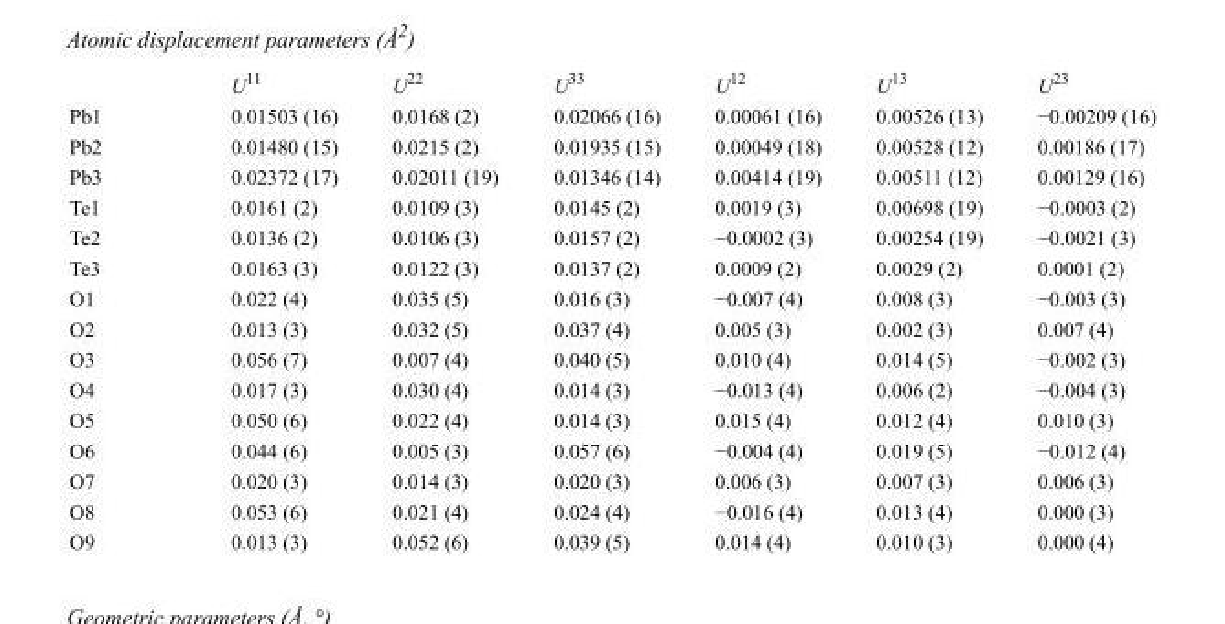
<table><thead><tr><td></td><td>U<sup>11</sup></td><td>U<sup>22</sup></td><td>U<sup>33</sup></td><td>U<sup>12</sup></td><td>U<sup>13</sup></td><td>U<sup>23</sup></td></tr></thead><tbody><tr><td>Pb1</td><td>0.01503 (16)</td><td>0.0168 (2)</td><td>0.02066 (16)</td><td>0.00061 (16)</td><td>0.00526 (13)</td><td>−0.00209 (16)</td></tr><tr><td>Pb2</td><td>0.01480 (15)</td><td>0.0215 (2)</td><td>0.01935 (15)</td><td>0.00049 (18)</td><td>0.00528 (12)</td><td>0.00186 (17)</td></tr><tr><td>Pb3</td><td>0.02372 (17)</td><td>0.02011 (19)</td><td>0.01346 (14)</td><td>0.00414 (19)</td><td>0.00511 (12)</td><td>0.00129 (16)</td></tr><tr><td>Te1</td><td>0.0161 (2)</td><td>0.0109 (3)</td><td>0.0145 (2)</td><td>0.0019 (3)</td><td>0.00698 (19)</td><td>−0.0003 (2)</td></tr><tr><td>Te2</td><td>0.0136 (2)</td><td>0.0106 (3)</td><td>0.0157 (2)</td><td>−0.0002 (3)</td><td>0.00254 (19)</td><td>−0.0021 (3)</td></tr><tr><td>Te3</td><td>0.0163 (3)</td><td>0.0122 (3)</td><td>0.0137 (2)</td><td>0.0009 (2)</td><td>0.0029 (2)</td><td>0.0001 (2)</td></tr><tr><td>O1</td><td>0.022 (4)</td><td>0.035 (5)</td><td>0.016 (3)</td><td>−0.007 (4)</td><td>0.008 (3)</td><td>−0.003 (3)</td></tr><tr><td>O2</td><td>0.013 (3)</td><td>0.032 (5)</td><td>0.037 (4)</td><td>0.005 (3)</td><td>0.002 (3)</td><td>0.007 (4)</td></tr><tr><td>O3</td><td>0.056 (7)</td><td>0.007 (4)</td><td>0.040 (5)</td><td>0.010 (4)</td><td>0.014 (5)</td><td>−0.002 (3)</td></tr><tr><td>O4</td><td>0.017 (3)</td><td>0.030 (4)</td><td>0.014 (3)</td><td>−0.013 (4)</td><td>0.006 (2)</td><td>−0.004 (3)</td></tr><tr><td>O5</td><td>0.050 (6)</td><td>0.022 (4)</td><td>0.014 (3)</td><td>0.015 (4)</td><td>0.012 (4)</td><td>0.010 (3)</td></tr><tr><td>O6</td><td>0.044 (6)</td><td>0.005 (3)</td><td>0.057 (6)</td><td>−0.004 (4)</td><td>0.019 (5)</td><td>−0.012 (4)</td></tr><tr><td>O7</td><td>0.020 (3)</td><td>0.014 (3)</td><td>0.020 (3)</td><td>0.006 (3)</td><td>0.007 (3)</td><td>0.006 (3)</td></tr><tr><td>O8</td><td>0.053 (6)</td><td>0.021 (4)</td><td>0.024 (4)</td><td>−0.016 (4)</td><td>0.013 (4)</td><td>0.000 (3)</td></tr><tr><td>O9</td><td>0.013 (3)</td><td>0.052 (6)</td><td>0.039 (5)</td><td>0.014 (4)</td><td>0.010 (3)</td><td>0.000 (4)</td></tr></tbody></table>